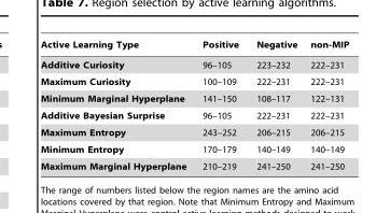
<table><thead><tr><td>Active Learning Type</td><td>Positive</td><td>Negative</td><td>non-MIP</td></tr></thead><tbody><tr><td>Additive Curiosity</td><td>96–105</td><td>223–232</td><td>222–231</td></tr><tr><td>Maximum Curiosity</td><td>100–109</td><td>222–231</td><td>222–231</td></tr><tr><td>Minimum Marginal Hyperplane</td><td>141–150</td><td>108–117</td><td>122–131</td></tr><tr><td>Additive Bayesian Surprise</td><td>96–105</td><td>222–231</td><td>222–231</td></tr><tr><td>Maximum Entropy</td><td>243–252</td><td>206–215</td><td>206–215</td></tr><tr><td>Minimum Entropy</td><td>170–179</td><td>140–149</td><td>140–149</td></tr><tr><td>Maximum Marginal Hyperplane</td><td>210–219</td><td>241–250</td><td>241–250</td></tr></tbody></table>